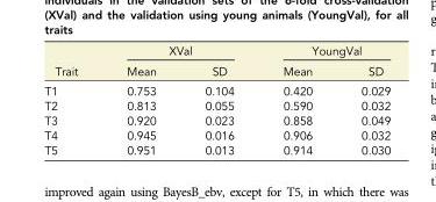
<table><thead><tr><td rowspan="2">Trait</td><td colspan="2">XVal</td><td colspan="2">YoungVal</td></tr><tr><td>Mean</td><td>SD</td><td>Mean</td><td>SD</td></tr></thead><tbody><tr><td>T1</td><td>0.753</td><td>0.104</td><td>0.420</td><td>0.029</td></tr><tr><td>T2</td><td>0.813</td><td>0.055</td><td>0.590</td><td>0.032</td></tr><tr><td>T3</td><td>0.920</td><td>0.023</td><td>0.858</td><td>0.049</td></tr><tr><td>T4</td><td>0.945</td><td>0.016</td><td>0.906</td><td>0.032</td></tr><tr><td>T5</td><td>0.951</td><td>0.013</td><td>0.914</td><td>0.030</td></tr></tbody></table>